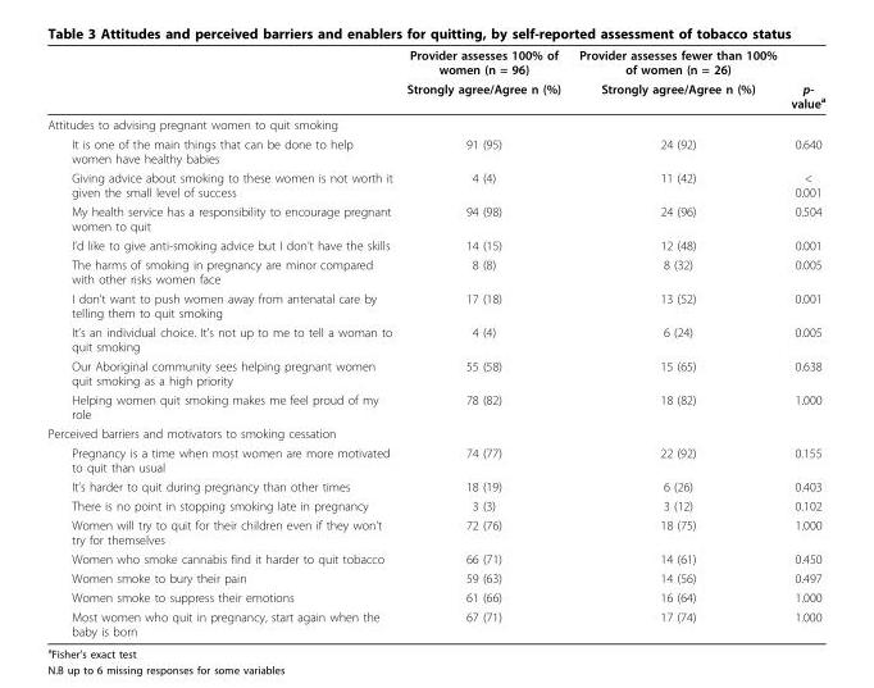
<table><thead><tr><td rowspan="2"></td><td rowspan="2">Provider assesses 100% of women (n = 96) Strongly agree/Agree n (%)</td><td rowspan="2">Provider assesses fewer than 100% of women (n = 26) Strongly agree/Agree n (%)</td><td rowspan="2">p- value<sup>a</sup></td></tr><tr></tr></thead><tbody><tr><td colspan="4">Attitudes to advising pregnant women to quit smoking</td></tr><tr><td>It is one of the main things that can be done to help women have healthy babies</td><td>91 (95)</td><td>24 (92)</td><td>0.640</td></tr><tr><td>Giving advice about smoking to these women is not worth it given the small level of success</td><td>4 (4)</td><td>11 (42)</td><td>&lt; 0.001</td></tr><tr><td>My health service has a responsibility to encourage pregnant women to quit</td><td>94 (98)</td><td>24 (96)</td><td>0.504</td></tr><tr><td>I’d like to give anti-smoking advice but I don’t have the skills</td><td>14 (15)</td><td>12 (48)</td><td>0.001</td></tr><tr><td>The harms of smoking in pregnancy are minor compared with other risks women face</td><td>8 (8)</td><td>8 (32)</td><td>0.005</td></tr><tr><td>I don’t want to push women away from antenatal care by telling them to quit smoking</td><td>17 (18)</td><td>13 (52)</td><td>0.001</td></tr><tr><td>It’s an individual choice. It’s not up to me to tell a woman to quit smoking</td><td>4 (4)</td><td>6 (24)</td><td>0.005</td></tr><tr><td>Our Aboriginal community sees helping pregnant women quit smoking as a high priority</td><td>55 (58)</td><td>15 (65)</td><td>0.638</td></tr><tr><td>Helping women quit smoking makes me feel proud of my role</td><td>78 (82)</td><td>18 (82)</td><td>1.000</td></tr><tr><td colspan="4">Perceived barriers and motivators to smoking cessation</td></tr><tr><td>Pregnancy is a time when most women are more motivated to quit than usual</td><td>74 (77)</td><td>22 (92)</td><td>0.155</td></tr><tr><td>It’s harder to quit during pregnancy than other times</td><td>18 (19)</td><td>6 (26)</td><td>0.403</td></tr><tr><td>There is no point in stopping smoking late in pregnancy</td><td>3 (3)</td><td>3 (12)</td><td>0.102</td></tr><tr><td>Women will try to quit for their children even if they won’t try for themselves</td><td>72 (76)</td><td>18 (75)</td><td>1.000</td></tr><tr><td>Women who smoke cannabis find it harder to quit tobacco</td><td>66 (71)</td><td>14 (61)</td><td>0.450</td></tr><tr><td>Women smoke to bury their pain</td><td>59 (63)</td><td>14 (56)</td><td>0.497</td></tr><tr><td>Women smoke to suppress their emotions</td><td>61 (66)</td><td>16 (64)</td><td>1.000</td></tr><tr><td>Most women who quit in pregnancy, start again when the baby is born</td><td>67 (71)</td><td>17 (74)</td><td>1.000</td></tr></tbody></table>